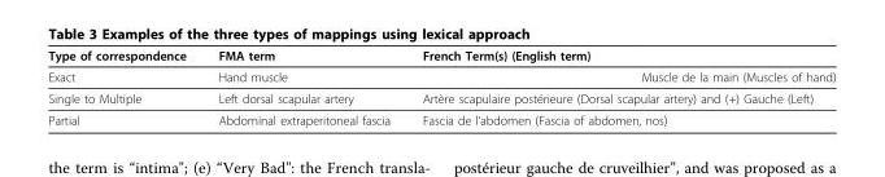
<table><thead><tr><td>Type of correspondence</td><td>FMA term</td><td>French Term(s) (English term)</td></tr></thead><tbody><tr><td>Exact</td><td>Hand muscle</td><td>Muscle de la main (Muscles of hand)</td></tr><tr><td>Single to Multiple</td><td>Left dorsal scapular artery</td><td>Artère scapulaire postérieure (Dorsal scapular artery) and (+) Gauche (Left)</td></tr><tr><td>Partial</td><td>Abdominal extraperitoneal fascia</td><td>Fascia de l’abdomen (Fascia of abdomen, nos)</td></tr></tbody></table>